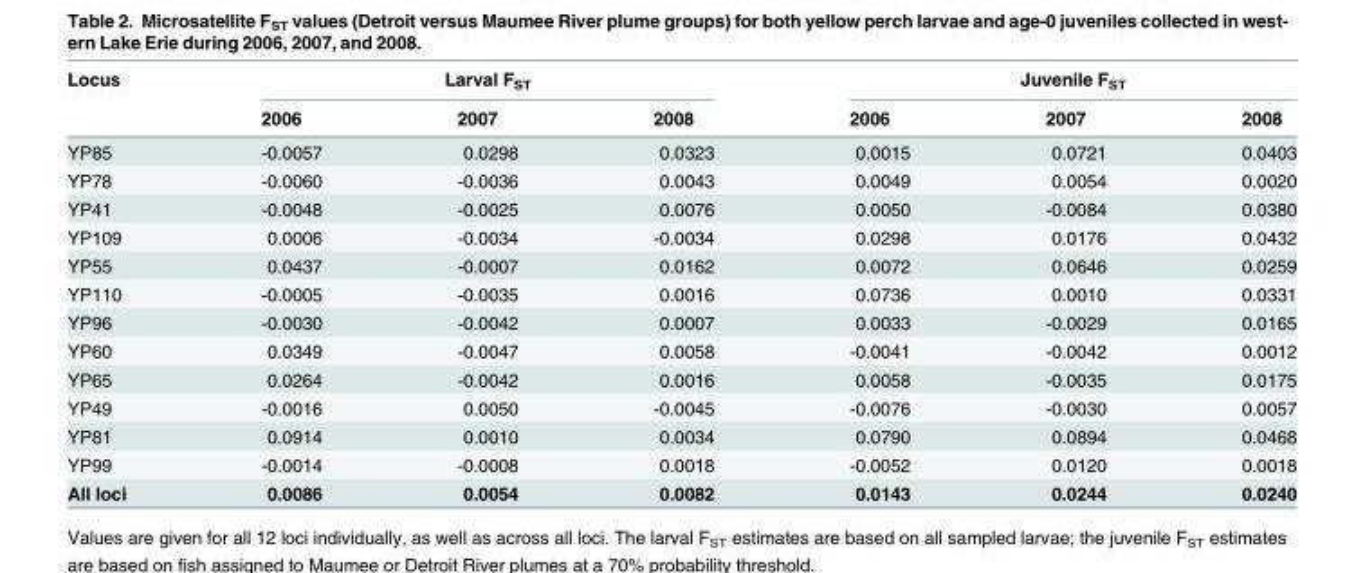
<table><thead><tr><td rowspan="2">Locus</td><td colspan="3">Larval F<sub>ST</sub></td><td colspan="3">Juvenile F<sub>ST</sub></td></tr><tr><td>2006</td><td>2007</td><td>2008</td><td>2006</td><td>2007</td><td>2008</td></tr></thead><tbody><tr><td>YP85</td><td>-0.0057</td><td>0.0298</td><td>0.0323</td><td>0.0015</td><td>0.0721</td><td>0.0403</td></tr><tr><td>YP78</td><td>-0.0060</td><td>-0.0036</td><td>0.0043</td><td>0.0049</td><td>0.0054</td><td>0.0020</td></tr><tr><td>YP41</td><td>-0.0048</td><td>-0.0025</td><td>0.0076</td><td>0.0050</td><td>-0.0084</td><td>0.0380</td></tr><tr><td>YP109</td><td>0.0006</td><td>-0.0034</td><td>-0.0034</td><td>0.0298</td><td>0.0176</td><td>0.0432</td></tr><tr><td>YP55</td><td>0.0437</td><td>-0.0007</td><td>0.0162</td><td>0.0072</td><td>0.0646</td><td>0.0259</td></tr><tr><td>YP110</td><td>-0.0005</td><td>-0.0035</td><td>0.0016</td><td>0.0736</td><td>0.0010</td><td>0.0331</td></tr><tr><td>YP96</td><td>-0.0030</td><td>-0.0042</td><td>0.0007</td><td>0.0033</td><td>-0.0029</td><td>0.0165</td></tr><tr><td>YP60</td><td>0.0349</td><td>-0.0047</td><td>0.0058</td><td>-0.0041</td><td>-0.0042</td><td>0.0012</td></tr><tr><td>YP65</td><td>0.0264</td><td>-0.0042</td><td>0.0016</td><td>0.0058</td><td>-0.0035</td><td>0.0175</td></tr><tr><td>YP49</td><td>-0.0016</td><td>0.0050</td><td>-0.0045</td><td>-0.0076</td><td>-0.0030</td><td>0.0057</td></tr><tr><td>YP81</td><td>0.0914</td><td>0.0010</td><td>0.0034</td><td>0.0790</td><td>0.0894</td><td>0.0468</td></tr><tr><td>YP99</td><td>-0.0014</td><td>-0.0008</td><td>0.0018</td><td>-0.0052</td><td>0.0120</td><td>0.0018</td></tr><tr><td>All loci</td><td>0.0086</td><td>0.0054</td><td>0.0082</td><td>0.0143</td><td>0.0244</td><td>0.0240</td></tr></tbody></table>